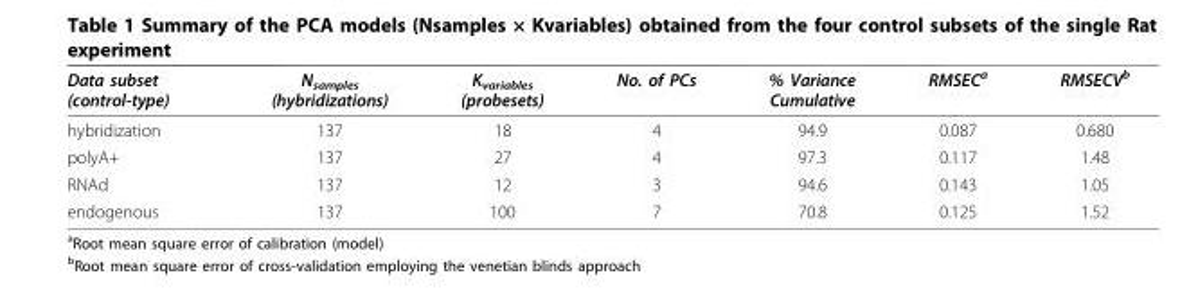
<table><thead><tr><td>Data subset (control-type)</td><td>N<sub>samples</sub> (hybridizations)</td><td>K<sub>variables</sub> (probesets)</td><td>No. of PCs</td><td>% Variance Cumulative</td><td>RMSEC<sup>a</sup></td><td>RMSECV<sup>b</sup></td></tr></thead><tbody><tr><td>hybridization</td><td>137</td><td>18</td><td>4</td><td>94.9</td><td>0.087</td><td>0.680</td></tr><tr><td>polyA+</td><td>137</td><td>27</td><td>4</td><td>97.3</td><td>0.117</td><td>1.48</td></tr><tr><td>RNAd</td><td>137</td><td>12</td><td>3</td><td>94.6</td><td>0.143</td><td>1.05</td></tr><tr><td>endogenous</td><td>137</td><td>100</td><td>7</td><td>70.8</td><td>0.125</td><td>1.52</td></tr></tbody></table>